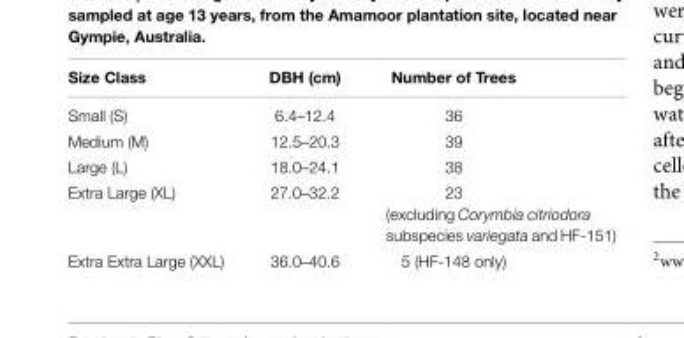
<table><thead><tr><td>Size Class</td><td>DBH (cm)</td><td>Number of Trees</td></tr></thead><tbody><tr><td>Small (S)</td><td>6.4–12.4</td><td>36</td></tr><tr><td>Medium (M)</td><td>12.5–20.3</td><td>39</td></tr><tr><td>Large (L)</td><td>18.0–24.1</td><td>38</td></tr><tr><td>Extra Large (XL)</td><td>27.0–32.2</td><td>23 (excluding Corymbia citriodora subspecies variegata and HF-151)</td></tr><tr><td>Extra Extra Large (XXL)</td><td>36.0–40.6</td><td>5 (HF-148 only)</td></tr></tbody></table>